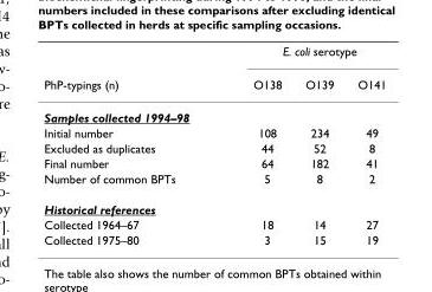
<table><thead><tr><td rowspan="2">PhP-typings (n)</td><td colspan="3">E. coli serotype</td></tr><tr><td>O138</td><td>O139</td><td>O141</td></tr></thead><tbody><tr><td colspan="4">Samples collected 1994–98</td></tr><tr><td>Initial number</td><td>108</td><td>234</td><td>49</td></tr><tr><td>Excluded as duplicates</td><td>44</td><td>52</td><td>8</td></tr><tr><td>Final number</td><td>64</td><td>182</td><td>41</td></tr><tr><td>Number of common BPTs</td><td>5</td><td>8</td><td>2</td></tr><tr><td colspan="4">Historical references</td></tr><tr><td>Collected 1964–67</td><td>18</td><td>14</td><td>27</td></tr><tr><td>Collected 1975–80</td><td>3</td><td>15</td><td>19</td></tr></tbody></table>